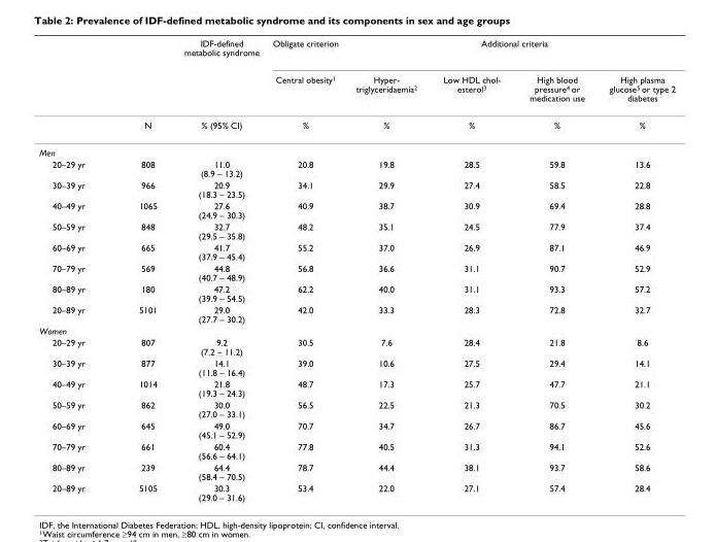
<table><thead><tr><td rowspan="2"></td><td rowspan="2"></td><td rowspan="2">IDF-defined metabolic syndrome</td><td rowspan="2">Obligate criterion Central obesity<sup>1</sup></td><td colspan="4">Additional criteria</td></tr><tr><td>Hyper- triglyceridaemia<sup>2</sup></td><td>Low HDL chol- esterol<sup>3</sup></td><td>High blood pressure<sup>4</sup> or medication use</td><td>High plasma glucose<sup>5</sup> or type 2 diabetes</td></tr></thead><tbody><tr><td></td><td>N</td><td>% (95% CI)</td><td>%</td><td>%</td><td>%</td><td>%</td><td>%</td></tr><tr><td colspan="8">Men</td></tr><tr><td>20–29 yr</td><td>808</td><td>11.0 (8.9 – 13.2)</td><td>20.8</td><td>19.8</td><td>28.5</td><td>59.8</td><td>13.6</td></tr><tr><td>30–39 yr</td><td>966</td><td>20.9 (18.3 – 23.5)</td><td>34.1</td><td>29.9</td><td>27.4</td><td>58.5</td><td>22.8</td></tr><tr><td>40–49 yr</td><td>1065</td><td>27.6 (24.9 – 30.3)</td><td>40.9</td><td>38.7</td><td>30.9</td><td>69.4</td><td>28.8</td></tr><tr><td>50–59 yr</td><td>848</td><td>32.7 (29.5 – 35.8)</td><td>48.2</td><td>35.1</td><td>24.5</td><td>77.9</td><td>37.4</td></tr><tr><td>60–69 yr</td><td>665</td><td>41.7 (37.9 – 45.4)</td><td>55.2</td><td>37.0</td><td>26.9</td><td>87.1</td><td>46.9</td></tr><tr><td>70–79 yr</td><td>569</td><td>44.8 (40.7 – 48.9)</td><td>56.8</td><td>36.6</td><td>31.1</td><td>90.7</td><td>52.9</td></tr><tr><td>80–89 yr</td><td>180</td><td>47.2 (39.9 – 54.5)</td><td>62.2</td><td>40.0</td><td>31.1</td><td>93.3</td><td>57.2</td></tr><tr><td>20–89 yr</td><td>5101</td><td>29.0 (27.7 – 30.2)</td><td>42.0</td><td>33.3</td><td>28.3</td><td>72.8</td><td>32.7</td></tr><tr><td colspan="8">Women</td></tr><tr><td>20–29 yr</td><td>807</td><td>9.2 (7.2 – 11.2)</td><td>30.5</td><td>7.6</td><td>28.4</td><td>21.8</td><td>8.6</td></tr><tr><td>30–39 yr</td><td>877</td><td>14.1 (11.8 – 16.4)</td><td>39.0</td><td>10.6</td><td>27.5</td><td>29.4</td><td>14.1</td></tr><tr><td>40–49 yr</td><td>1014</td><td>21.8 (19.3 – 24.3)</td><td>48.7</td><td>17.3</td><td>25.7</td><td>47.7</td><td>21.1</td></tr><tr><td>50–59 yr</td><td>862</td><td>30.0 (27.0 – 33.1)</td><td>56.5</td><td>22.5</td><td>21.3</td><td>70.5</td><td>30.2</td></tr><tr><td>60–69 yr</td><td>645</td><td>49.0 (45.1 – 52.9)</td><td>70.7</td><td>34.7</td><td>26.7</td><td>86.7</td><td>45.6</td></tr><tr><td>70–79 yr</td><td>661</td><td>60.4 (56.6 – 64.1)</td><td>77.8</td><td>40.5</td><td>31.3</td><td>94.1</td><td>52.6</td></tr><tr><td>80–89 yr</td><td>239</td><td>64.4 (58.4 – 70.5)</td><td>78.7</td><td>44.4</td><td>38.1</td><td>93.7</td><td>58.6</td></tr><tr><td>20–89 yr</td><td>5105</td><td>30.3 (29.0 – 31.6)</td><td>53.4</td><td>22.0</td><td>27.1</td><td>57.4</td><td>28.4</td></tr></tbody></table>